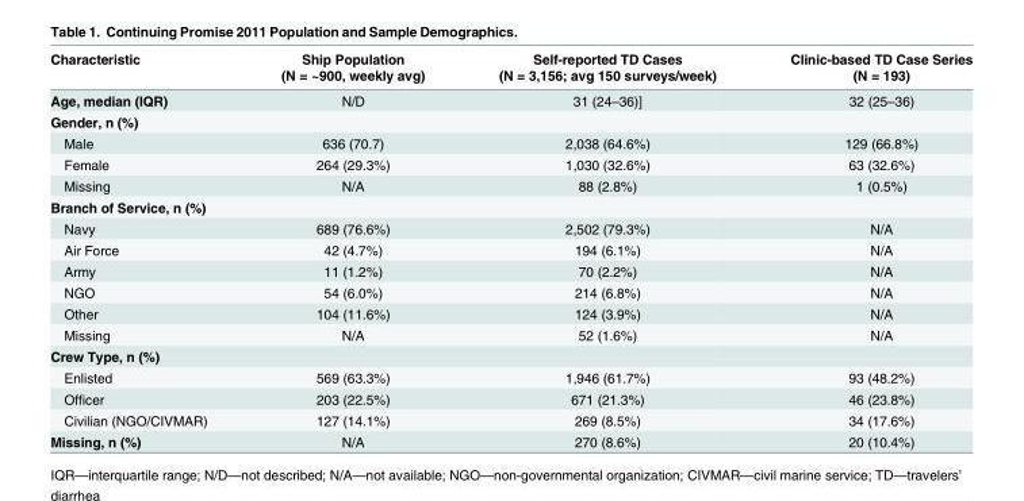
<table><thead><tr><td rowspan="2">Characteristic</td><td rowspan="2">Ship Population (N = ~900, weekly avg)</td><td rowspan="2">Self-reported TD Cases (N = 3,156; avg 150 surveys/week)</td><td rowspan="2">Clinic-based TD Case Series (N = 193)</td></tr><tr></tr></thead><tbody><tr><td>Age, median (IQR)</td><td>N/D</td><td>31 (24–36)]</td><td>32 (25–36)</td></tr><tr><td colspan="4">Gender, n (%)</td></tr><tr><td>Male</td><td>636 (70.7)</td><td>2,038 (64.6%)</td><td>129 (66.8%)</td></tr><tr><td>Female</td><td>264 (29.3%)</td><td>1,030 (32.6%)</td><td>63 (32.6%)</td></tr><tr><td>Missing</td><td>N/A</td><td>88 (2.8%)</td><td>1 (0.5%)</td></tr><tr><td colspan="4">Branch of Service, n (%)</td></tr><tr><td>Navy</td><td>689 (76.6%)</td><td>2,502 (79.3%)</td><td>N/A</td></tr><tr><td>Air Force</td><td>42 (4.7%)</td><td>194 (6.1%)</td><td>N/A</td></tr><tr><td>Army</td><td>11 (1.2%)</td><td>70 (2.2%)</td><td>N/A</td></tr><tr><td>NGO</td><td>54 (6.0%)</td><td>214 (6.8%)</td><td>N/A</td></tr><tr><td>Other</td><td>104 (11.6%)</td><td>124 (3.9%)</td><td>N/A</td></tr><tr><td>Missing</td><td>N/A</td><td>52 (1.6%)</td><td>N/A</td></tr><tr><td colspan="4">Crew Type, n (%)</td></tr><tr><td>Enlisted</td><td>569 (63.3%)</td><td>1,946 (61.7%)</td><td>93 (48.2%)</td></tr><tr><td>Officer</td><td>203 (22.5%)</td><td>671 (21.3%)</td><td>46 (23.8%)</td></tr><tr><td>Civilian (NGO/CIVMAR)</td><td>127 (14.1%)</td><td>269 (8.5%)</td><td>34 (17.6%)</td></tr><tr><td>Missing, n (%)</td><td>N/A</td><td>270 (8.6%)</td><td>20 (10.4%)</td></tr></tbody></table>